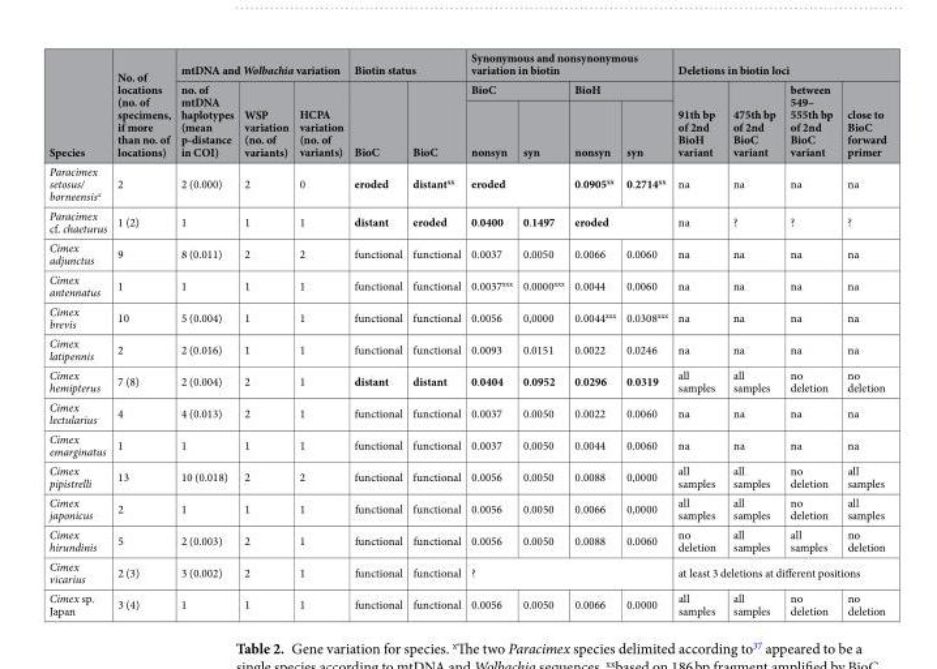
<table><thead><tr><td rowspan="3">Species</td><td rowspan="3">No. of locations (no. of specimens, if more than no. of locations)</td><td colspan="3">mtDNA and Wolbachia variation</td><td colspan="2">Biotin status</td><td colspan="4">Synonymous and nonsynonymous variation in biotin</td><td colspan="4">Deletions in biotin loci</td></tr><tr><td rowspan="2">no. of mtDNA haplotypes (mean p-distance in COI)</td><td rowspan="2">WSP variation (no. of variants)</td><td rowspan="2">HCPA variation (no. of variants)</td><td rowspan="2">BioC</td><td rowspan="2">BioC</td><td colspan="2">BioC</td><td colspan="2">BioH</td><td rowspan="2">91th bp of 2nd BioH variant</td><td rowspan="2">475th bp of 2nd BioC variant</td><td rowspan="2">between 549– 555th bp of 2nd BioC variant</td><td rowspan="2">close to BioC forward primer</td></tr><tr><td>nonsyn</td><td>syn</td><td>nonsyn</td><td>syn</td></tr></thead><tbody><tr><td>Paracimex setosus/ borneensis<sup>x</sup></td><td>2</td><td>2 (0.000)</td><td>2</td><td>0</td><td>eroded</td><td>distant<sup>xx</sup></td><td colspan="2">eroded</td><td>0.0905<sup>xx</sup></td><td>0.2714<sup>xx</sup></td><td>na</td><td>na</td><td>na</td><td>na</td></tr><tr><td>Paracimex cf. chaeturus</td><td>1 (2)</td><td>1</td><td>1</td><td>1</td><td>distant</td><td>eroded</td><td>0.0400</td><td>0.1497</td><td colspan="2">eroded</td><td>na</td><td>?</td><td>?</td><td>?</td></tr><tr><td>Cimex adjunctus</td><td>9</td><td>8 (0.011)</td><td>2</td><td>2</td><td>functional</td><td>functional</td><td>0.0037</td><td>0.0050</td><td>0.0066</td><td>0.0060</td><td>na</td><td>na</td><td>na</td><td>na</td></tr><tr><td>Cimex antennatus</td><td>1</td><td>1</td><td>1</td><td>1</td><td>functional</td><td>functional</td><td>0.0037<sup>xxx</sup></td><td>0.0000<sup>xxx</sup></td><td>0.0044</td><td>0.0060</td><td>na</td><td>na</td><td>na</td><td>na</td></tr><tr><td>Cimex brevis</td><td>10</td><td>5 (0.004)</td><td>1</td><td>1</td><td>functional</td><td>functional</td><td>0.0056</td><td>0,0000</td><td>0.0044<sup>xxx</sup></td><td>0.0308<sup>xxx</sup></td><td>na</td><td>na</td><td>na</td><td>na</td></tr><tr><td>Cimex latipennis</td><td>2</td><td>2 (0.016)</td><td>1</td><td>1</td><td>functional</td><td>functional</td><td>0.0093</td><td>0.0151</td><td>0.0022</td><td>0.0246</td><td>na</td><td>na</td><td>na</td><td>na</td></tr><tr><td>Cimex hemipterus</td><td>7 (8)</td><td>2 (0.004)</td><td>2</td><td>1</td><td>distant</td><td>distant</td><td>0.0404</td><td>0.0952</td><td>0.0296</td><td>0.0319</td><td>all samples</td><td>all samples</td><td>no deletion</td><td>no deletion</td></tr><tr><td>Cimex lectularius</td><td>4</td><td>4 (0.013)</td><td>2</td><td>1</td><td>functional</td><td>functional</td><td>0.0037</td><td>0.0050</td><td>0.0022</td><td>0.0060</td><td>na</td><td>na</td><td>na</td><td>na</td></tr><tr><td>Cimex emarginatus</td><td>1</td><td>1</td><td>1</td><td>1</td><td>functional</td><td>functional</td><td>0.0037</td><td>0.0050</td><td>0.0044</td><td>0.0060</td><td>na</td><td>na</td><td>na</td><td>na</td></tr><tr><td>Cimex pipistrelli</td><td>13</td><td>10 (0.018)</td><td>2</td><td>2</td><td>functional</td><td>functional</td><td>0.0056</td><td>0.0050</td><td>0.0088</td><td>0,0000</td><td>all samples</td><td>all samples</td><td>no deletion</td><td>all samples</td></tr><tr><td>Cimex japonicus</td><td>2</td><td>1</td><td>1</td><td>1</td><td>functional</td><td>functional</td><td>0.0056</td><td>0.0050</td><td>0.0066</td><td>0,0000</td><td>all samples</td><td>all samples</td><td>no deletion</td><td>all samples</td></tr><tr><td>Cimex hirundinis</td><td>5</td><td>2 (0.003)</td><td>2</td><td>1</td><td>functional</td><td>functional</td><td>0.0056</td><td>0.0050</td><td>0.0088</td><td>0.0060</td><td>no deletion</td><td>all samples</td><td>all samples</td><td>no deletion</td></tr><tr><td>Cimex vicarius</td><td>2 (3)</td><td>3 (0.002)</td><td>2</td><td>1</td><td>functional</td><td>functional</td><td colspan="4">?</td><td colspan="4">at least 3 deletions at different positions</td></tr><tr><td>Cimex sp. Japan</td><td>3 (4)</td><td>1</td><td>1</td><td>1</td><td>functional</td><td>functional</td><td>0.0056</td><td>0.0050</td><td>0.0066</td><td>0.0000</td><td>all samples</td><td>all samples</td><td>no deletion</td><td>no deletion</td></tr></tbody></table>